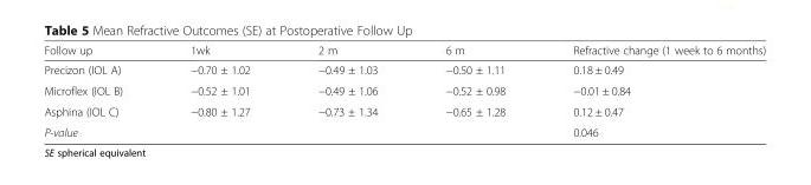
<table><thead><tr><td>Follow up</td><td>1wk</td><td>2 m</td><td>6 m</td><td>Refractive change (1 week to 6 months)</td></tr></thead><tbody><tr><td>Precizon (IOL A)</td><td>−0.70 ± 1.02</td><td>−0.49 ± 1.03</td><td>−0.50 ± 1.11</td><td>0.18 ± 0.49</td></tr><tr><td>Microflex (IOL B)</td><td>−0.52 ± 1.01</td><td>−0.49 ± 1.06</td><td>−0.52 ± 0.98</td><td>−0.01 ± 0.84</td></tr><tr><td>Asphina (IOL C)</td><td>−0.80 ± 1.27</td><td>−0.73 ± 1.34</td><td>−0.65 ± 1.28</td><td>0.12 ± 0.47</td></tr><tr><td>P-value</td><td></td><td></td><td></td><td>0.046</td></tr></tbody></table>